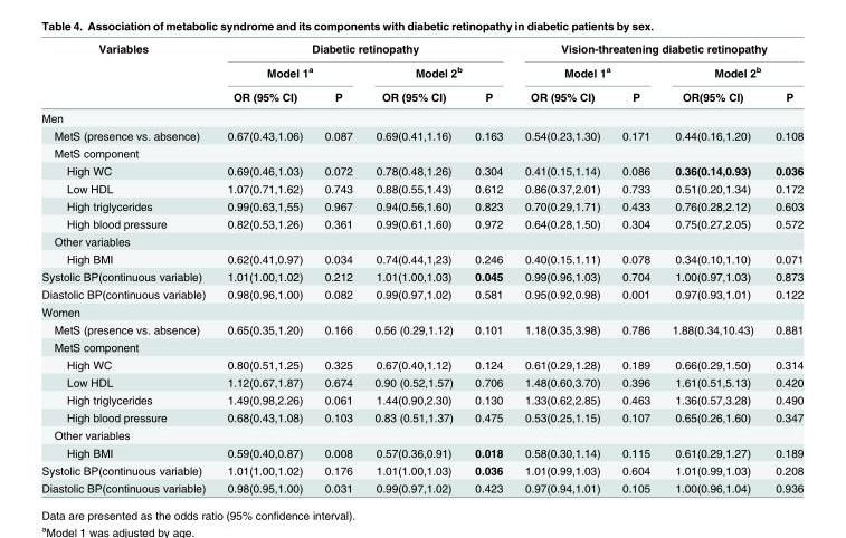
<table><thead><tr><td rowspan="3">Variables</td><td colspan="4">Diabetic retinopathy</td><td colspan="4">Vision-threatening diabetic retinopathy</td></tr><tr><td colspan="2">Model 1<sup>a</sup></td><td colspan="2">Model 2<sup>b</sup></td><td colspan="2">Model 1<sup>a</sup></td><td colspan="2">Model 2<sup>b</sup></td></tr><tr><td>OR (95% CI)</td><td>P</td><td>OR (95% CI)</td><td>P</td><td>OR (95% CI)</td><td>P</td><td>OR(95% CI)</td><td>P</td></tr></thead><tbody><tr><td colspan="9">Men</td></tr><tr><td>MetS (presence vs. absence)</td><td>0.67(0.43,1.06)</td><td>0.087</td><td>0.69(0.41,1.16)</td><td>0.163</td><td>0.54(0.23,1.30)</td><td>0.171</td><td>0.44(0.16,1.20)</td><td>0.108</td></tr><tr><td colspan="9">MetS component</td></tr><tr><td>High WC</td><td>0.69(0.46,1.03)</td><td>0.072</td><td>0.78(0.48,1.26)</td><td>0.304</td><td>0.41(0.15,1.14)</td><td>0.086</td><td>0.36(0.14,0.93)</td><td>0.036</td></tr><tr><td>Low HDL</td><td>1.07(0.71,1.62)</td><td>0.743</td><td>0.88(0.55,1.43)</td><td>0.612</td><td>0.86(0.37,2.01)</td><td>0.733</td><td>0.51(0.20,1.34)</td><td>0.172</td></tr><tr><td>High triglycerides</td><td>0.99(0.63,1,55)</td><td>0.967</td><td>0.94(0.56,1.60)</td><td>0.823</td><td>0.70(0.29,1.71)</td><td>0.433</td><td>0.76(0.28,2.12)</td><td>0.603</td></tr><tr><td>High blood pressure</td><td>0.82(0.53,1.26)</td><td>0.361</td><td>0.99(0.61,1.60)</td><td>0.972</td><td>0.64(0.28,1.50)</td><td>0.304</td><td>0.75(0.27,2.05)</td><td>0.572</td></tr><tr><td colspan="9">Other variables</td></tr><tr><td>High BMI</td><td>0.62(0.41,0.97)</td><td>0.034</td><td>0.74(0.44,1,23)</td><td>0.246</td><td>0.40(0.15.1.11)</td><td>0.078</td><td>0.34(0.10,1.10)</td><td>0.071</td></tr><tr><td>Systolic BP(continuous variable)</td><td>1.01(1.00,1.02)</td><td>0.212</td><td>1.01(1.00,1.03)</td><td>0.045</td><td>0.99(0.96,1.03)</td><td>0.704</td><td>1.00(0.97,1.03)</td><td>0.873</td></tr><tr><td>Diastolic BP(continuous variable)</td><td>0.98(0.96,1.00)</td><td>0.082</td><td>0.99(0.97,1.02)</td><td>0.581</td><td>0.95(0.92,0.98)</td><td>0.001</td><td>0.97(0.93,1.01)</td><td>0.122</td></tr><tr><td colspan="9">Women</td></tr><tr><td>MetS (presence vs. absence)</td><td>0.65(0.35,1.20)</td><td>0.166</td><td>0.56 (0.29,1.12)</td><td>0.101</td><td>1.18(0.35,3.98)</td><td>0.786</td><td>1.88(0.34,10.43)</td><td>0.881</td></tr><tr><td colspan="9">MetS component</td></tr><tr><td>High WC</td><td>0.80(0.51,1.25)</td><td>0.325</td><td>0.67(0.40,1.12)</td><td>0.124</td><td>0.61(0.29,1.28)</td><td>0.189</td><td>0.66(0.29,1.50)</td><td>0.314</td></tr><tr><td>Low HDL</td><td>1.12(0.67,1.87)</td><td>0.674</td><td>0.90 (0.52,1.57)</td><td>0.706</td><td>1.48(0.60,3.70)</td><td>0.396</td><td>1.61(0.51,5.13)</td><td>0.420</td></tr><tr><td>High triglycerides</td><td>1.49(0.98,2.26)</td><td>0.061</td><td>1.44(0.90,2.30)</td><td>0.130</td><td>1.33(0.62,2.85)</td><td>0.463</td><td>1.36(0.57,3.28)</td><td>0.490</td></tr><tr><td>High blood pressure</td><td>0.68(0.43,1.08)</td><td>0.103</td><td>0.83 (0.51,1.37)</td><td>0.475</td><td>0.53(0.25,1.15)</td><td>0.107</td><td>0.65(0.26,1.60)</td><td>0.347</td></tr><tr><td colspan="9">Other variables</td></tr><tr><td>High BMI</td><td>0.59(0.40,0.87)</td><td>0.008</td><td>0.57(0.36,0.91)</td><td>0.018</td><td>0.58(0.30,1.14)</td><td>0.115</td><td>0.61(0.29,1.27)</td><td>0.189</td></tr><tr><td>Systolic BP(continuous variable)</td><td>1.01(1.00,1.02)</td><td>0.176</td><td>1.01(1.00,1.03)</td><td>0.036</td><td>1.01(0.99,1.03)</td><td>0.604</td><td>1.01(0.99,1.03)</td><td>0.208</td></tr><tr><td>Diastolic BP(continuous variable)</td><td>0.98(0.95,1.00)</td><td>0.031</td><td>0.99(0.97,1.02)</td><td>0.423</td><td>0.97(0.94,1.01)</td><td>0.105</td><td>1.00(0.96,1.04)</td><td>0.936</td></tr></tbody></table>